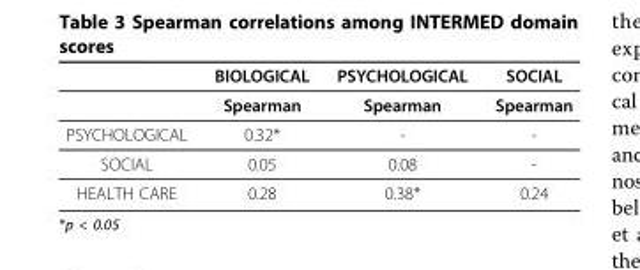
<table><thead><tr><td></td><td>BIOLOGICAL</td><td>PSYCHOLOGICAL</td><td>SOCIAL</td></tr></thead><tbody><tr><td></td><td>Spearman</td><td>Spearman</td><td>Spearman</td></tr><tr><td>PSYCHOLOGICAL</td><td>0.32*</td><td>-</td><td>-</td></tr><tr><td>SOCIAL</td><td>0.05</td><td>0.08</td><td>-</td></tr><tr><td>HEALTH CARE</td><td>0.28</td><td>0.38*</td><td>0.24</td></tr></tbody></table>